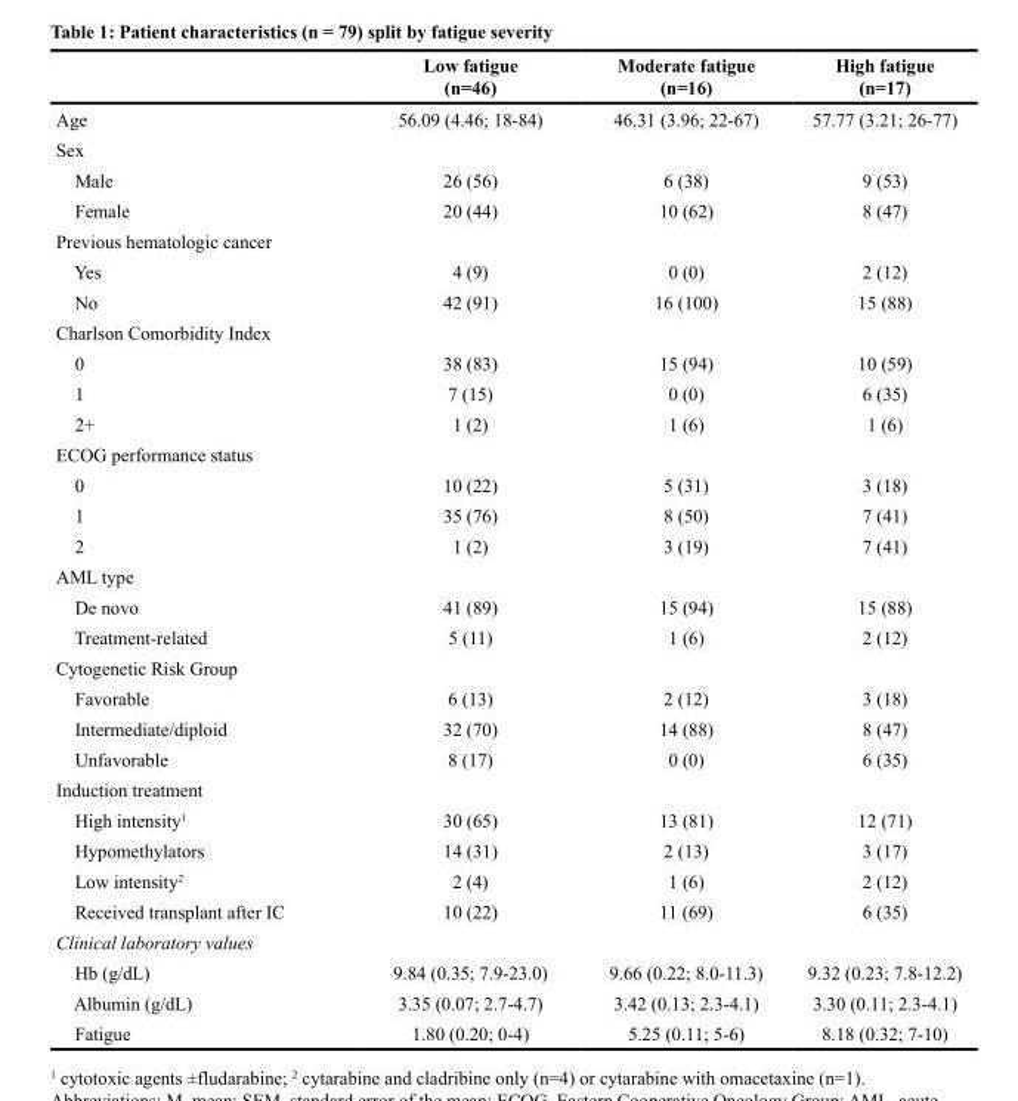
<table><thead><tr><td></td><td>Low fatigue (n=46)</td><td>Moderate fatigue (n=16)</td><td>High fatigue (n=17)</td></tr></thead><tbody><tr><td>Age</td><td>56.09 (4.46; 18-84)</td><td>46.31 (3.96; 22-67)</td><td>57.77 (3.21; 26-77)</td></tr><tr><td colspan="4">Sex</td></tr><tr><td>Male</td><td>26 (56)</td><td>6 (38)</td><td>9 (53)</td></tr><tr><td>Female</td><td>20 (44)</td><td>10 (62)</td><td>8 (47)</td></tr><tr><td colspan="4">Previous hematologic cancer</td></tr><tr><td>Yes</td><td>4 (9)</td><td>0 (0)</td><td>2 (12)</td></tr><tr><td>No</td><td>42 (91)</td><td>16 (100)</td><td>15 (88)</td></tr><tr><td colspan="4">Charlson Comorbidity Index</td></tr><tr><td>0</td><td>38 (83)</td><td>15 (94)</td><td>10 (59)</td></tr><tr><td>1</td><td>7 (15)</td><td>0 (0)</td><td>6 (35)</td></tr><tr><td>2+</td><td>1 (2)</td><td>1 (6)</td><td>1 (6)</td></tr><tr><td colspan="4">ECOG performance status</td></tr><tr><td>0</td><td>10 (22)</td><td>5 (31)</td><td>3 (18)</td></tr><tr><td>1</td><td>35 (76)</td><td>8 (50)</td><td>7 (41)</td></tr><tr><td>2</td><td>1 (2)</td><td>3 (19)</td><td>7 (41)</td></tr><tr><td colspan="4">AML type</td></tr><tr><td>De novo</td><td>41 (89)</td><td>15 (94)</td><td>15 (88)</td></tr><tr><td>Treatment-related</td><td>5 (11)</td><td>1 (6)</td><td>2 (12)</td></tr><tr><td colspan="4">Cytogenetic Risk Group</td></tr><tr><td>Favorable</td><td>6 (13)</td><td>2 (12)</td><td>3 (18)</td></tr><tr><td>Intermediate/diploid</td><td>32 (70)</td><td>14 (88)</td><td>8 (47)</td></tr><tr><td>Unfavorable</td><td>8 (17)</td><td>0 (0)</td><td>6 (35)</td></tr><tr><td colspan="4">Induction treatment</td></tr><tr><td>High intensity<sup>1</sup></td><td>30 (65)</td><td>13 (81)</td><td>12 (71)</td></tr><tr><td>Hypomethylators</td><td>14 (31)</td><td>2 (13)</td><td>3 (17)</td></tr><tr><td>Low intensity<sup>2</sup></td><td>2 (4)</td><td>1 (6)</td><td>2 (12)</td></tr><tr><td>Received transplant after IC</td><td>10 (22)</td><td>11 (69)</td><td>6 (35)</td></tr><tr><td colspan="4">Clinical laboratory values</td></tr><tr><td>Hb (g/dL)</td><td>9.84 (0.35; 7.9-23.0)</td><td>9.66 (0.22; 8.0-11.3)</td><td>9.32 (0.23; 7.8-12.2)</td></tr><tr><td>Albumin (g/dL)</td><td>3.35 (0.07; 2.7-4.7)</td><td>3.42 (0.13; 2.3-4.1)</td><td>3.30 (0.11; 2.3-4.1)</td></tr><tr><td>Fatigue</td><td>1.80 (0.20; 0-4)</td><td>5.25 (0.11; 5-6)</td><td>8.18 (0.32; 7-10)</td></tr></tbody></table>